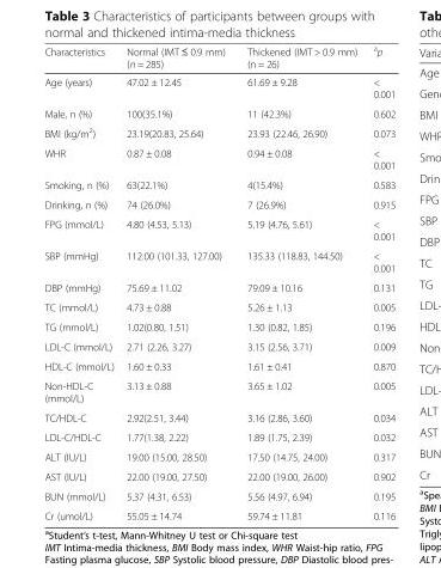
<table><thead><tr><td>Characteristics</td><td>Normal (IMT ≤ 0.9 mm) (n = 285)</td><td>Thickened (IMT &gt; 0.9 mm) (n = 26)</td><td><sup>a</sup>p</td></tr></thead><tbody><tr><td>Age (years)</td><td>47.02 ± 12.45</td><td>61.69 ± 9.28</td><td>&lt; 0.001</td></tr><tr><td>Male, n (%)</td><td>100(35.1%)</td><td>11 (42.3%)</td><td>0.602</td></tr><tr><td>BMI (kg/m<sup>2</sup>)</td><td>23.19(20.83, 25.64)</td><td>23.93 (22.46, 26.90)</td><td>0.073</td></tr><tr><td>WHR</td><td>0.87 ± 0.08</td><td>0.94 ± 0.08</td><td>&lt; 0.001</td></tr><tr><td>Smoking, n (%)</td><td>63(22.1%)</td><td>4(15.4%)</td><td>0.583</td></tr><tr><td>Drinking, n (%)</td><td>74 (26.0%)</td><td>7 (26.9%)</td><td>0.915</td></tr><tr><td>FPG (mmol/L)</td><td>4.80 (4.53, 5.13)</td><td>5.19 (4.76, 5.61)</td><td>&lt; 0.001</td></tr><tr><td>SBP (mmHg)</td><td>112.00 (101.33, 127.00)</td><td>135.33 (118.83, 144.50)</td><td>&lt; 0.001</td></tr><tr><td>DBP (mmHg)</td><td>75.69 ± 11.02</td><td>79.09 ± 10.16</td><td>0.131</td></tr><tr><td>TC (mmol/L)</td><td>4.73 ± 0.88</td><td>5.26 ± 1.13</td><td>0.005</td></tr><tr><td>TG (mmol/L)</td><td>1.02(0.80, 1.51)</td><td>1.30 (0.82, 1.85)</td><td>0.196</td></tr><tr><td>LDL-C (mmol/L)</td><td>2.71 (2.26, 3.27)</td><td>3.15 (2.56, 3.71)</td><td>0.009</td></tr><tr><td>HDL-C (mmol/L)</td><td>1.60 ± 0.33</td><td>1.61 ± 0.41</td><td>0.870</td></tr><tr><td>Non-HDL-C (mmol/L)</td><td>3.13 ± 0.88</td><td>3.65 ± 1.02</td><td>0.005</td></tr><tr><td>TC/HDL-C</td><td>2.92(2.51, 3.44)</td><td>3.16 (2.86, 3.60)</td><td>0.034</td></tr><tr><td>LDL-C/HDL-C</td><td>1.77(1.38, 2.22)</td><td>1.89 (1.75, 2.39)</td><td>0.032</td></tr><tr><td>ALT (IU/L)</td><td>19.00 (15.00, 28.50)</td><td>17.50 (14.75, 24.00)</td><td>0.317</td></tr><tr><td>AST (IU/L)</td><td>22.00 (19.00, 27.50)</td><td>22.00 (19.00, 26.00)</td><td>0.902</td></tr><tr><td>BUN (mmol/L)</td><td>5.37 (4.31, 6.53)</td><td>5.56 (4.97, 6.94)</td><td>0.195</td></tr><tr><td>Cr (umol/L)</td><td>55.05 ± 14.74</td><td>59.74 ± 11.81</td><td>0.116</td></tr></tbody></table>